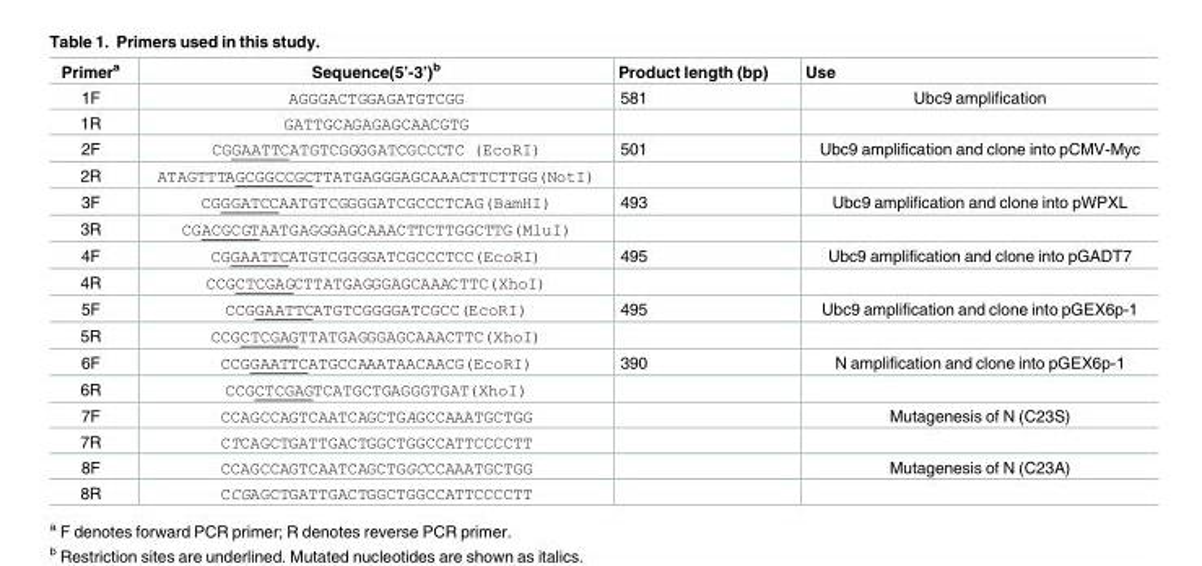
<table><thead><tr><td>Primer<sup>a</sup></td><td>Sequence(5’-3’)<sup>b</sup></td><td>Product length (bp)</td><td>Use</td></tr></thead><tbody><tr><td>1F</td><td>AGGGACTGGAGATGTCGG</td><td>581</td><td>Ubc9 amplification</td></tr><tr><td>1R</td><td>GATTGCAGAGAGCAACGTG</td><td></td><td></td></tr><tr><td>2F</td><td>CGGAATTCATGTCGGGGATCGCCCTC (EcoRI)</td><td>501</td><td>Ubc9 amplification and clone into pCMV-Myc</td></tr><tr><td>2R</td><td>ATAGTTTAGCGGCCGCTTATGAGGGAGCAAACTTCTTGG(NotI)</td><td></td><td></td></tr><tr><td>3F</td><td>CGGGATCCAATGTCGGGGATCGCCCTCAG(BamHI)</td><td>493</td><td>Ubc9 amplification and clone into pWPXL</td></tr><tr><td>3R</td><td>CGACGCGTAATGAGGGAGCAAACTTCTTGGCTTG(MluI)</td><td></td><td></td></tr><tr><td>4F</td><td>CGGAATTCATGTCGGGGATCGCCCTCC(EcoRI)</td><td>495</td><td>Ubc9 amplification and clone into pGADT7</td></tr><tr><td>4R</td><td>CCGCTCGAGCTTATGAGGGAGCAAACTTC(XhoI)</td><td></td><td></td></tr><tr><td>5F</td><td>CCGGAATTCATGTCGGGGATCGCC(EcoRI)</td><td>495</td><td>Ubc9 amplification and clone into pGEX6p-1</td></tr><tr><td>5R</td><td>CCGCTCGAGTTATGAGGGAGCAAACTTC(XhoI)</td><td></td><td></td></tr><tr><td>6F</td><td>CCGGAATTCATGCCAAATAACAACG(EcoRI)</td><td>390</td><td>N amplification and clone into pGEX6p-1</td></tr><tr><td>6R</td><td>CCGCTCGAGTCATGCTGAGGGTGAT(XhoI)</td><td></td><td></td></tr><tr><td>7F</td><td>CCAGCCAGTCAATCAGCTGAGCCAAATGCTGG</td><td></td><td>Mutagenesis of N (C23S)</td></tr><tr><td>7R</td><td>CTCAGCTGATTGACTGGCTGGCCATTCCCCTT</td><td></td><td></td></tr><tr><td>8F</td><td>CCAGCCAGTCAATCAGCTGGCCCAAATGCTGG</td><td></td><td>Mutagenesis of N (C23A)</td></tr><tr><td>8R</td><td>CCGAGCTGATTGACTGGCTGGCCATTCCCCTT</td><td></td><td></td></tr></tbody></table>